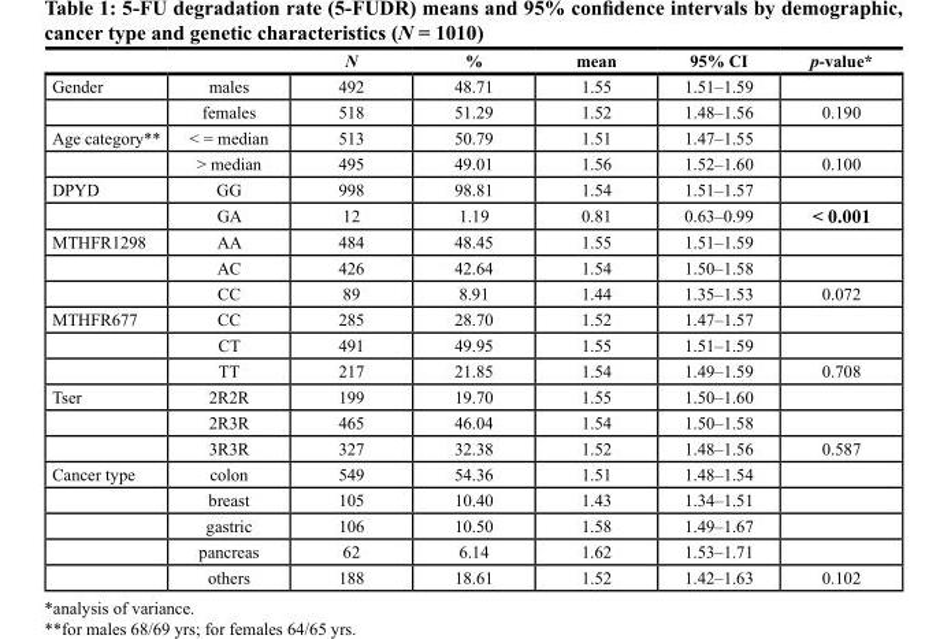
<table><thead><tr><td></td><td></td><td>N</td><td>%</td><td>mean</td><td>95% CI</td><td>p-value*</td></tr></thead><tbody><tr><td rowspan="2">Gender</td><td>males</td><td>492</td><td>48.71</td><td>1.55</td><td>1.51–1.59</td><td></td></tr><tr><td>females</td><td>518</td><td>51.29</td><td>1.52</td><td>1.48–1.56</td><td>0.190</td></tr><tr><td rowspan="2">Age category**</td><td>&lt; = median</td><td>513</td><td>50.79</td><td>1.51</td><td>1.47–1.55</td><td></td></tr><tr><td>&gt; median</td><td>495</td><td>49.01</td><td>1.56</td><td>1.52–1.60</td><td>0.100</td></tr><tr><td rowspan="2">DPYD</td><td>GG</td><td>998</td><td>98.81</td><td>1.54</td><td>1.51–1.57</td><td></td></tr><tr><td>GA</td><td>12</td><td>1.19</td><td>0.81</td><td>0.63–0.99</td><td>&lt; 0.001</td></tr><tr><td rowspan="3">MTHFR1298</td><td>AA</td><td>484</td><td>48.45</td><td>1.55</td><td>1.51–1.59</td><td></td></tr><tr><td>AC</td><td>426</td><td>42.64</td><td>1.54</td><td>1.50–1.58</td><td></td></tr><tr><td>CC</td><td>89</td><td>8.91</td><td>1.44</td><td>1.35–1.53</td><td>0.072</td></tr><tr><td rowspan="3">MTHFR677</td><td>CC</td><td>285</td><td>28.70</td><td>1.52</td><td>1.47–1.57</td><td></td></tr><tr><td>CT</td><td>491</td><td>49.95</td><td>1.55</td><td>1.51–1.59</td><td></td></tr><tr><td>TT</td><td>217</td><td>21.85</td><td>1.54</td><td>1.49–1.59</td><td>0.708</td></tr><tr><td rowspan="3">Tser</td><td>2R2R</td><td>199</td><td>19.70</td><td>1.55</td><td>1.50–1.60</td><td></td></tr><tr><td>2R3R</td><td>465</td><td>46.04</td><td>1.54</td><td>1.50–1.58</td><td></td></tr><tr><td>3R3R</td><td>327</td><td>32.38</td><td>1.52</td><td>1.48–1.56</td><td>0.587</td></tr><tr><td rowspan="5">Cancer type</td><td>colon</td><td>549</td><td>54.36</td><td>1.51</td><td>1.48–1.54</td><td></td></tr><tr><td>breast</td><td>105</td><td>10.40</td><td>1.43</td><td>1.34–1.51</td><td></td></tr><tr><td>gastric</td><td>106</td><td>10.50</td><td>1.58</td><td>1.49–1.67</td><td></td></tr><tr><td>pancreas</td><td>62</td><td>6.14</td><td>1.62</td><td>1.53–1.71</td><td></td></tr><tr><td>others</td><td>188</td><td>18.61</td><td>1.52</td><td>1.42–1.63</td><td>0.102</td></tr></tbody></table>